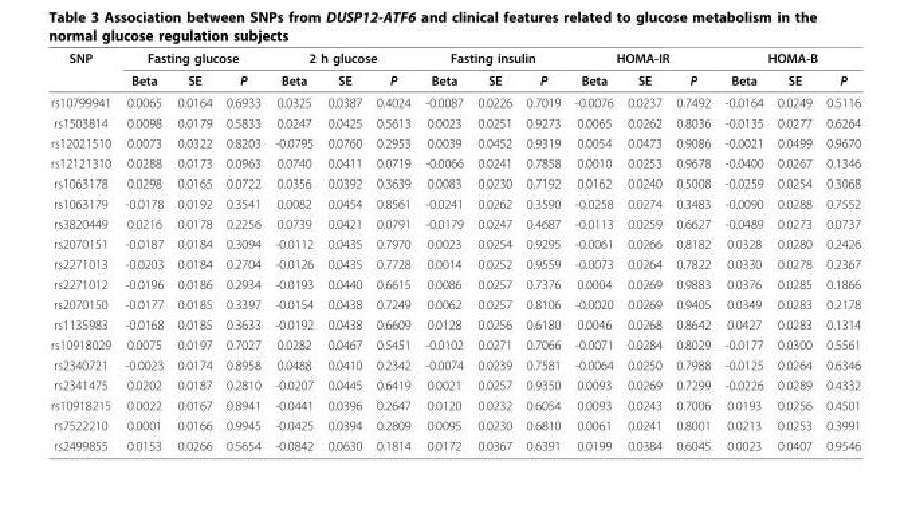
<table><thead><tr><td rowspan="2">SNP</td><td colspan="3">Fasting glucose</td><td colspan="3">2 h glucose</td><td colspan="3">Fasting insulin</td><td colspan="3">HOMA-IR</td><td colspan="3">HOMA-B</td></tr><tr><td>Beta</td><td>SE</td><td>P</td><td>Beta</td><td>SE</td><td>P</td><td>Beta</td><td>SE</td><td>P</td><td>Beta</td><td>SE</td><td>P</td><td>Beta</td><td>SE</td><td>P</td></tr></thead><tbody><tr><td>rs10799941</td><td>0.0065</td><td>0.0164</td><td>0.6933</td><td>0.0325</td><td>0.0387</td><td>0.4024</td><td>-0.0087</td><td>0.0226</td><td>0.7019</td><td>-0.0076</td><td>0.0237</td><td>0.7492</td><td>-0.0164</td><td>0.0249</td><td>0.5116</td></tr><tr><td>rs1503814</td><td>0.0098</td><td>0.0179</td><td>0.5833</td><td>0.0247</td><td>0.0425</td><td>0.5613</td><td>0.0023</td><td>0.0251</td><td>0.9273</td><td>0.0065</td><td>0.0262</td><td>0.8036</td><td>-0.0135</td><td>0.0277</td><td>0.6264</td></tr><tr><td>rs12021510</td><td>0.0073</td><td>0.0322</td><td>0.8203</td><td>-0.0795</td><td>0.0760</td><td>0.2953</td><td>0.0039</td><td>0.0452</td><td>0.9319</td><td>0.0054</td><td>0.0473</td><td>0.9086</td><td>-0.0021</td><td>0.0499</td><td>0.9670</td></tr><tr><td>rs12121310</td><td>0.0288</td><td>0.0173</td><td>0.0963</td><td>0.0740</td><td>0.0411</td><td>0.0719</td><td>-0.0066</td><td>0.0241</td><td>0.7858</td><td>0.0010</td><td>0.0253</td><td>0.9678</td><td>-0.0400</td><td>0.0267</td><td>0.1346</td></tr><tr><td>rs1063178</td><td>0.0298</td><td>0.0165</td><td>0.0722</td><td>0.0356</td><td>0.0392</td><td>0.3639</td><td>0.0083</td><td>0.0230</td><td>0.7192</td><td>0.0162</td><td>0.0240</td><td>0.5008</td><td>-0.0259</td><td>0.0254</td><td>0.3068</td></tr><tr><td>rs1063179</td><td>-0.0178</td><td>0.0192</td><td>0.3541</td><td>0.0082</td><td>0.0454</td><td>0.8561</td><td>-0.0241</td><td>0.0262</td><td>0.3590</td><td>-0.0258</td><td>0.0274</td><td>0.3483</td><td>-0.0090</td><td>0.0288</td><td>0.7552</td></tr><tr><td>rs3820449</td><td>0.0216</td><td>0.0178</td><td>0.2256</td><td>0.0739</td><td>0.0421</td><td>0.0791</td><td>-0.0179</td><td>0.0247</td><td>0.4687</td><td>-0.0113</td><td>0.0259</td><td>0.6627</td><td>-0.0489</td><td>0.0273</td><td>0.0737</td></tr><tr><td>rs2070151</td><td>-0.0187</td><td>0.0184</td><td>0.3094</td><td>-0.0112</td><td>0.0435</td><td>0.7970</td><td>0.0023</td><td>0.0254</td><td>0.9295</td><td>-0.0061</td><td>0.0266</td><td>0.8182</td><td>0.0328</td><td>0.0280</td><td>0.2426</td></tr><tr><td>rs2271013</td><td>-0.0203</td><td>0.0184</td><td>0.2704</td><td>-0.0126</td><td>0.0435</td><td>0.7728</td><td>0.0014</td><td>0.0252</td><td>0.9559</td><td>-0.0073</td><td>0.0264</td><td>0.7822</td><td>0.0330</td><td>0.0278</td><td>0.2367</td></tr><tr><td>rs2271012</td><td>-0.0196</td><td>0.0186</td><td>0.2934</td><td>-0.0193</td><td>0.0440</td><td>0.6615</td><td>0.0086</td><td>0.0257</td><td>0.7376</td><td>0.0004</td><td>0.0269</td><td>0.9883</td><td>0.0376</td><td>0.0285</td><td>0.1866</td></tr><tr><td>rs2070150</td><td>-0.0177</td><td>0.0185</td><td>0.3397</td><td>-0.0154</td><td>0.0438</td><td>0.7249</td><td>0.0062</td><td>0.0257</td><td>0.8106</td><td>-0.0020</td><td>0.0269</td><td>0.9405</td><td>0.0349</td><td>0.0283</td><td>0.2178</td></tr><tr><td>rs1135983</td><td>-0.0168</td><td>0.0185</td><td>0.3633</td><td>-0.0192</td><td>0.0438</td><td>0.6609</td><td>0.0128</td><td>0.0256</td><td>0.6180</td><td>0.0046</td><td>0.0268</td><td>0.8642</td><td>0.0427</td><td>0.0283</td><td>0.1314</td></tr><tr><td>rs10918029</td><td>0.0075</td><td>0.0197</td><td>0.7027</td><td>0.0282</td><td>0.0467</td><td>0.5451</td><td>-0.0102</td><td>0.0271</td><td>0.7066</td><td>-0.0071</td><td>0.0284</td><td>0.8029</td><td>-0.0177</td><td>0.0300</td><td>0.5561</td></tr><tr><td>rs2340721</td><td>-0.0023</td><td>0.0174</td><td>0.8958</td><td>0.0488</td><td>0.0410</td><td>0.2342</td><td>-0.0074</td><td>0.0239</td><td>0.7581</td><td>-0.0064</td><td>0.0250</td><td>0.7988</td><td>-0.0125</td><td>0.0264</td><td>0.6346</td></tr><tr><td>rs2341475</td><td>0.0202</td><td>0.0187</td><td>0.2810</td><td>-0.0207</td><td>0.0445</td><td>0.6419</td><td>0.0021</td><td>0.0257</td><td>0.9350</td><td>0.0093</td><td>0.0269</td><td>0.7299</td><td>-0.0226</td><td>0.0289</td><td>0.4332</td></tr><tr><td>rs10918215</td><td>0.0022</td><td>0.0167</td><td>0.8941</td><td>-0.0441</td><td>0.0396</td><td>0.2647</td><td>0.0120</td><td>0.0232</td><td>0.6054</td><td>0.0093</td><td>0.0243</td><td>0.7006</td><td>0.0193</td><td>0.0256</td><td>0.4501</td></tr><tr><td>rs7522210</td><td>0.0001</td><td>0.0166</td><td>0.9945</td><td>-0.0425</td><td>0.0394</td><td>0.2809</td><td>0.0095</td><td>0.0230</td><td>0.6810</td><td>0.0061</td><td>0.0241</td><td>0.8001</td><td>0.0213</td><td>0.0253</td><td>0.3991</td></tr><tr><td>rs2499855</td><td>0.0153</td><td>0.0266</td><td>0.5654</td><td>-0.0842</td><td>0.0630</td><td>0.1814</td><td>0.0172</td><td>0.0367</td><td>0.6391</td><td>0.0199</td><td>0.0384</td><td>0.6045</td><td>0.0023</td><td>0.0407</td><td>0.9546</td></tr></tbody></table>